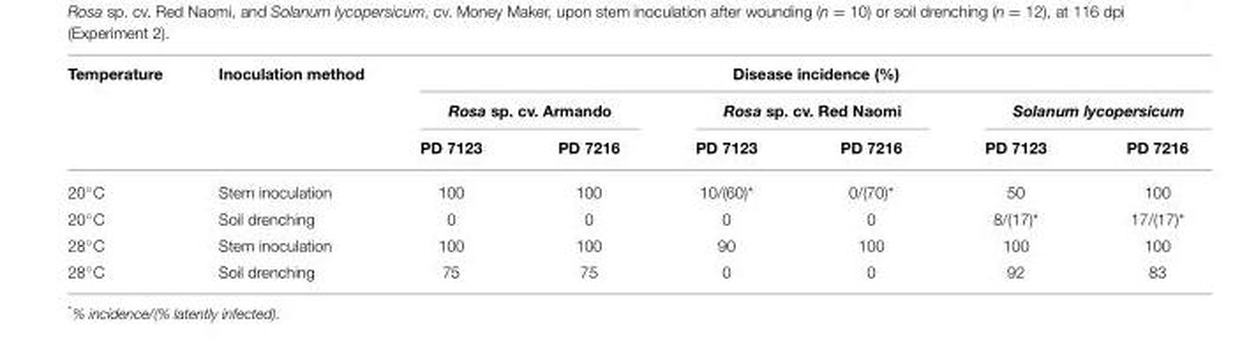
<table><thead><tr><td rowspan="3">Temperature</td><td rowspan="3">Inoculation method</td><td colspan="6">Disease incidence (%)</td></tr><tr><td colspan="2">Rosa sp. cv. Armando</td><td colspan="2">Rosa sp. cv. Red Naomi</td><td colspan="2">Solanum lycopersicum</td></tr><tr><td>PD 7123</td><td>PD 7216</td><td>PD 7123</td><td>PD 7216</td><td>PD 7123</td><td>PD 7216</td></tr></thead><tbody><tr><td>20◦C</td><td>Stem inoculation</td><td>100</td><td>100</td><td>10/(60)*</td><td>0/(70)*</td><td>50</td><td>100</td></tr><tr><td>20◦C</td><td>Soil drenching</td><td>0</td><td>0</td><td>0</td><td>0</td><td>8/(17)*</td><td>17/(17)*</td></tr><tr><td>28◦C</td><td>Stem inoculation</td><td>100</td><td>100</td><td>90</td><td>100</td><td>100</td><td>100</td></tr><tr><td>28◦C</td><td>Soil drenching</td><td>75</td><td>75</td><td>0</td><td>0</td><td>92</td><td>83</td></tr></tbody></table>